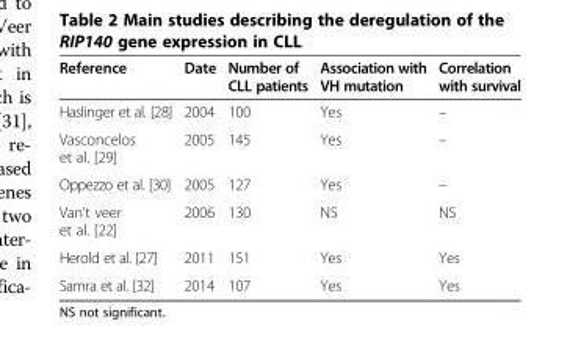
<table><thead><tr><td>Reference</td><td>Date</td><td>Number of CLL patients</td><td>Association with VH mutation</td><td>Correlation with survival</td></tr></thead><tbody><tr><td>Haslinger et al. [28]</td><td>2004</td><td>100</td><td>Yes</td><td>–</td></tr><tr><td>Vasconcelos et al. [29]</td><td>2005</td><td>145</td><td>Yes</td><td>–</td></tr><tr><td>Oppezzo et al. [30]</td><td>2005</td><td>127</td><td>Yes</td><td>–</td></tr><tr><td>Van’t veer et al. [22]</td><td>2006</td><td>130</td><td>NS</td><td>NS</td></tr><tr><td>Herold et al. [27]</td><td>2011</td><td>151</td><td>Yes</td><td>Yes</td></tr><tr><td>Samra et al. [32]</td><td>2014</td><td>107</td><td>Yes</td><td>Yes</td></tr></tbody></table>